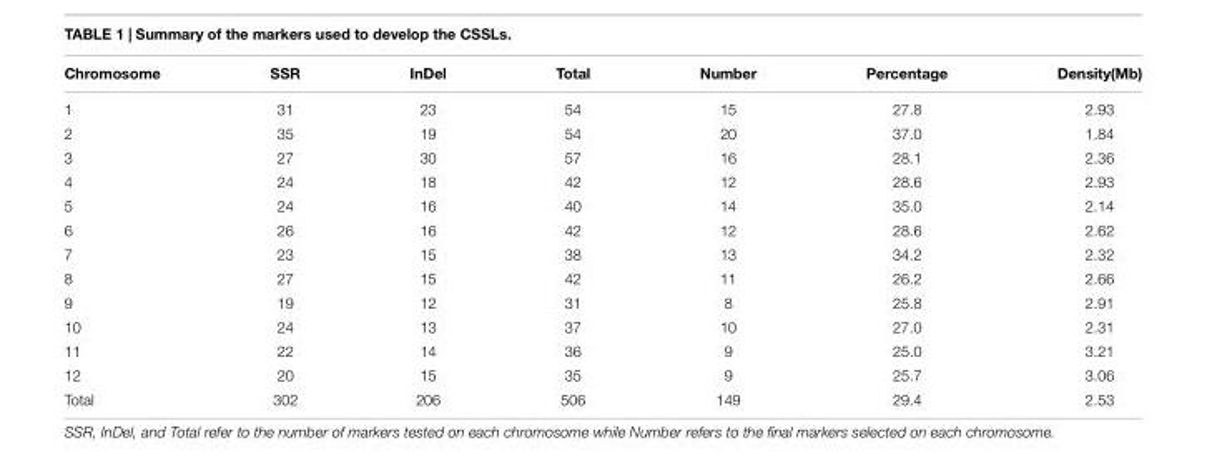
<table><thead><tr><td>Chromosome</td><td>SSR</td><td>InDel</td><td>Total</td><td>Number</td><td>Percentage</td><td>Density(Mb)</td></tr></thead><tbody><tr><td>1</td><td>31</td><td>23</td><td>54</td><td>15</td><td>27.8</td><td>2.93</td></tr><tr><td>2</td><td>35</td><td>19</td><td>54</td><td>20</td><td>37.0</td><td>1.84</td></tr><tr><td>3</td><td>27</td><td>30</td><td>57</td><td>16</td><td>28.1</td><td>2.36</td></tr><tr><td>4</td><td>24</td><td>18</td><td>42</td><td>12</td><td>28.6</td><td>2.93</td></tr><tr><td>5</td><td>24</td><td>16</td><td>40</td><td>14</td><td>35.0</td><td>2.14</td></tr><tr><td>6</td><td>26</td><td>16</td><td>42</td><td>12</td><td>28.6</td><td>2.62</td></tr><tr><td>7</td><td>23</td><td>15</td><td>38</td><td>13</td><td>34.2</td><td>2.32</td></tr><tr><td>8</td><td>27</td><td>15</td><td>42</td><td>11</td><td>26.2</td><td>2.66</td></tr><tr><td>9</td><td>19</td><td>12</td><td>31</td><td>8</td><td>25.8</td><td>2.91</td></tr><tr><td>10</td><td>24</td><td>13</td><td>37</td><td>10</td><td>27.0</td><td>2.31</td></tr><tr><td>11</td><td>22</td><td>14</td><td>36</td><td>9</td><td>25.0</td><td>3.21</td></tr><tr><td>12</td><td>20</td><td>15</td><td>35</td><td>9</td><td>25.7</td><td>3.06</td></tr><tr><td>Total</td><td>302</td><td>206</td><td>506</td><td>149</td><td>29.4</td><td>2.53</td></tr></tbody></table>